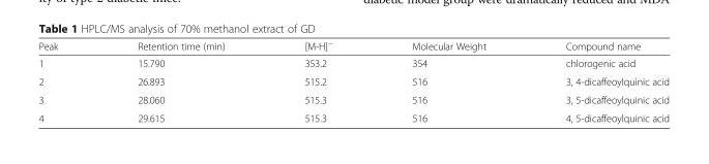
<table><thead><tr><td>Peak</td><td>Retention time (min)</td><td>[M-H]<sup>−</sup></td><td>Molecular Weight</td><td>Compound name</td></tr></thead><tbody><tr><td>1</td><td>15.790</td><td>353.2</td><td>354</td><td>chlorogenic acid</td></tr><tr><td>2</td><td>26.893</td><td>515.2</td><td>516</td><td>3, 4-dicaffeoylquinic acid</td></tr><tr><td>3</td><td>28.060</td><td>515.3</td><td>516</td><td>3, 5-dicaffeoylquinic acid</td></tr><tr><td>4</td><td>29.615</td><td>515.3</td><td>516</td><td>4, 5-dicaffeoylquinic acid</td></tr></tbody></table>